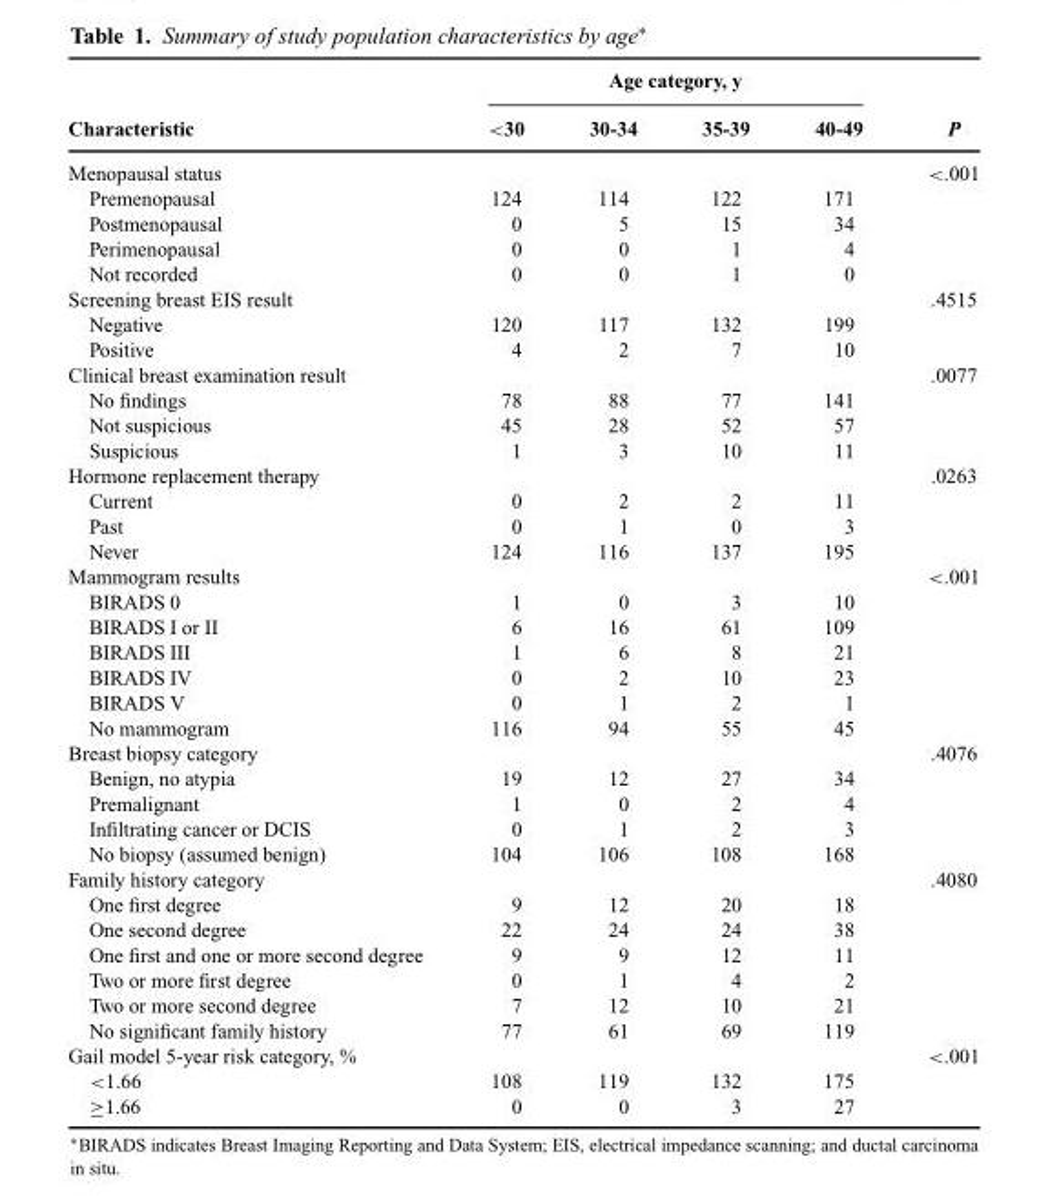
<table><thead><tr><td rowspan="2">Characteristic</td><td colspan="4">Age category, y</td><td rowspan="2">P</td></tr><tr><td>&lt;30</td><td>30-34</td><td>35-39</td><td>40-49</td></tr></thead><tbody><tr><td>Menopausal status</td><td></td><td></td><td></td><td></td><td>&lt;.001</td></tr><tr><td>Premenopausal</td><td>124</td><td>114</td><td>122</td><td>171</td><td></td></tr><tr><td>Postmenopausal</td><td>0</td><td>5</td><td>15</td><td>34</td><td></td></tr><tr><td>Perimenopausal</td><td>0</td><td>0</td><td>1</td><td>4</td><td></td></tr><tr><td>Not recorded</td><td>0</td><td>0</td><td>1</td><td>0</td><td></td></tr><tr><td>Screening breast EIS result</td><td></td><td></td><td></td><td></td><td>.4515</td></tr><tr><td>Negative</td><td>120</td><td>117</td><td>132</td><td>199</td><td></td></tr><tr><td>Positive</td><td>4</td><td>2</td><td>7</td><td>10</td><td></td></tr><tr><td>Clinical breast examination result</td><td></td><td></td><td></td><td></td><td>.0077</td></tr><tr><td>No findings</td><td>78</td><td>88</td><td>77</td><td>141</td><td></td></tr><tr><td>Not suspicious</td><td>45</td><td>28</td><td>52</td><td>57</td><td></td></tr><tr><td>Suspicious</td><td>1</td><td>3</td><td>10</td><td>11</td><td></td></tr><tr><td>Hormone replacement therapy</td><td></td><td></td><td></td><td></td><td>.0263</td></tr><tr><td>Current</td><td>0</td><td>2</td><td>2</td><td>11</td><td></td></tr><tr><td>Past</td><td>0</td><td>1</td><td>0</td><td>3</td><td></td></tr><tr><td>Never</td><td>124</td><td>116</td><td>137</td><td>195</td><td></td></tr><tr><td>Mammogram results</td><td></td><td></td><td></td><td></td><td>&lt;.001</td></tr><tr><td>BIRADS 0</td><td>1</td><td>0</td><td>3</td><td>10</td><td></td></tr><tr><td>BIRADS I or II</td><td>6</td><td>16</td><td>61</td><td>109</td><td></td></tr><tr><td>BIRADS III</td><td>1</td><td>6</td><td>8</td><td>21</td><td></td></tr><tr><td>BIRADS IV</td><td>0</td><td>2</td><td>10</td><td>23</td><td></td></tr><tr><td>BIRADS V</td><td>0</td><td>1</td><td>2</td><td>1</td><td></td></tr><tr><td>No mammogram</td><td>116</td><td>94</td><td>55</td><td>45</td><td></td></tr><tr><td>Breast biopsy category</td><td></td><td></td><td></td><td></td><td>.4076</td></tr><tr><td>Benign, no atypia</td><td>19</td><td>12</td><td>27</td><td>34</td><td></td></tr><tr><td>Premalignant</td><td>1</td><td>0</td><td>2</td><td>4</td><td></td></tr><tr><td>Infiltrating cancer or DCIS</td><td>0</td><td>1</td><td>2</td><td>3</td><td></td></tr><tr><td>No biopsy (assumed benign)</td><td>104</td><td>106</td><td>108</td><td>168</td><td></td></tr><tr><td>Family history category</td><td></td><td></td><td></td><td></td><td>.4080</td></tr><tr><td>One first degree</td><td>9</td><td>12</td><td>20</td><td>18</td><td></td></tr><tr><td>One second degree</td><td>22</td><td>24</td><td>24</td><td>38</td><td></td></tr><tr><td>One first and one or more second degree</td><td>9</td><td>9</td><td>12</td><td>11</td><td></td></tr><tr><td>Two or more first degree</td><td>0</td><td>1</td><td>4</td><td>2</td><td></td></tr><tr><td>Two or more second degree</td><td>7</td><td>12</td><td>10</td><td>21</td><td></td></tr><tr><td>No significant family history</td><td>77</td><td>61</td><td>69</td><td>119</td><td></td></tr><tr><td>Gail model 5-year risk category, %</td><td></td><td></td><td></td><td></td><td>&lt;.001</td></tr><tr><td>&lt;1.66</td><td>108</td><td>119</td><td>132</td><td>175</td><td></td></tr><tr><td>≥1.66</td><td>0</td><td>0</td><td>3</td><td>27</td><td></td></tr></tbody></table>